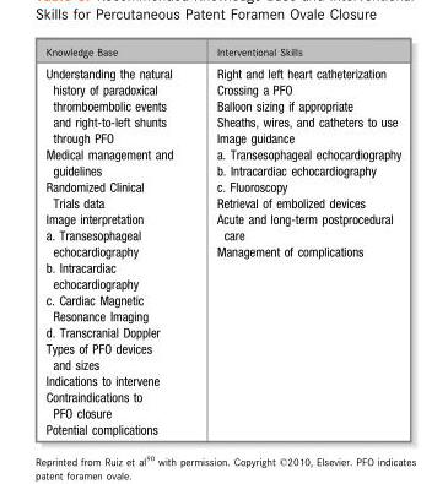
<table><thead><tr><td>Knowledge Base</td><td>Interventional Skills</td></tr></thead><tbody><tr><td>Understanding the natural history of paradoxical thromboembolic events and right-to-left shunts through PFO Medical management and guidelines Randomized Clinical Trials data Image interpretation a. Transesophageal echocardiography b. Intracardiac echocardiography c. Cardiac Magnetic Resonance Imaging d. Transcranial Doppler Types of PFO devices and sizes Indications to intervene Contraindications to PFO closure Potential complications</td><td>Right and left heart catheterization Crossing a PFO Balloon sizing if appropriate Sheaths, wires, and catheters to use Image guidance a. Transesophageal echocardiography b. Intracardiac echocardiography c. Fluoroscopy Retrieval of embolized devices Acute and long-term postprocedural care Management of complications</td></tr></tbody></table>